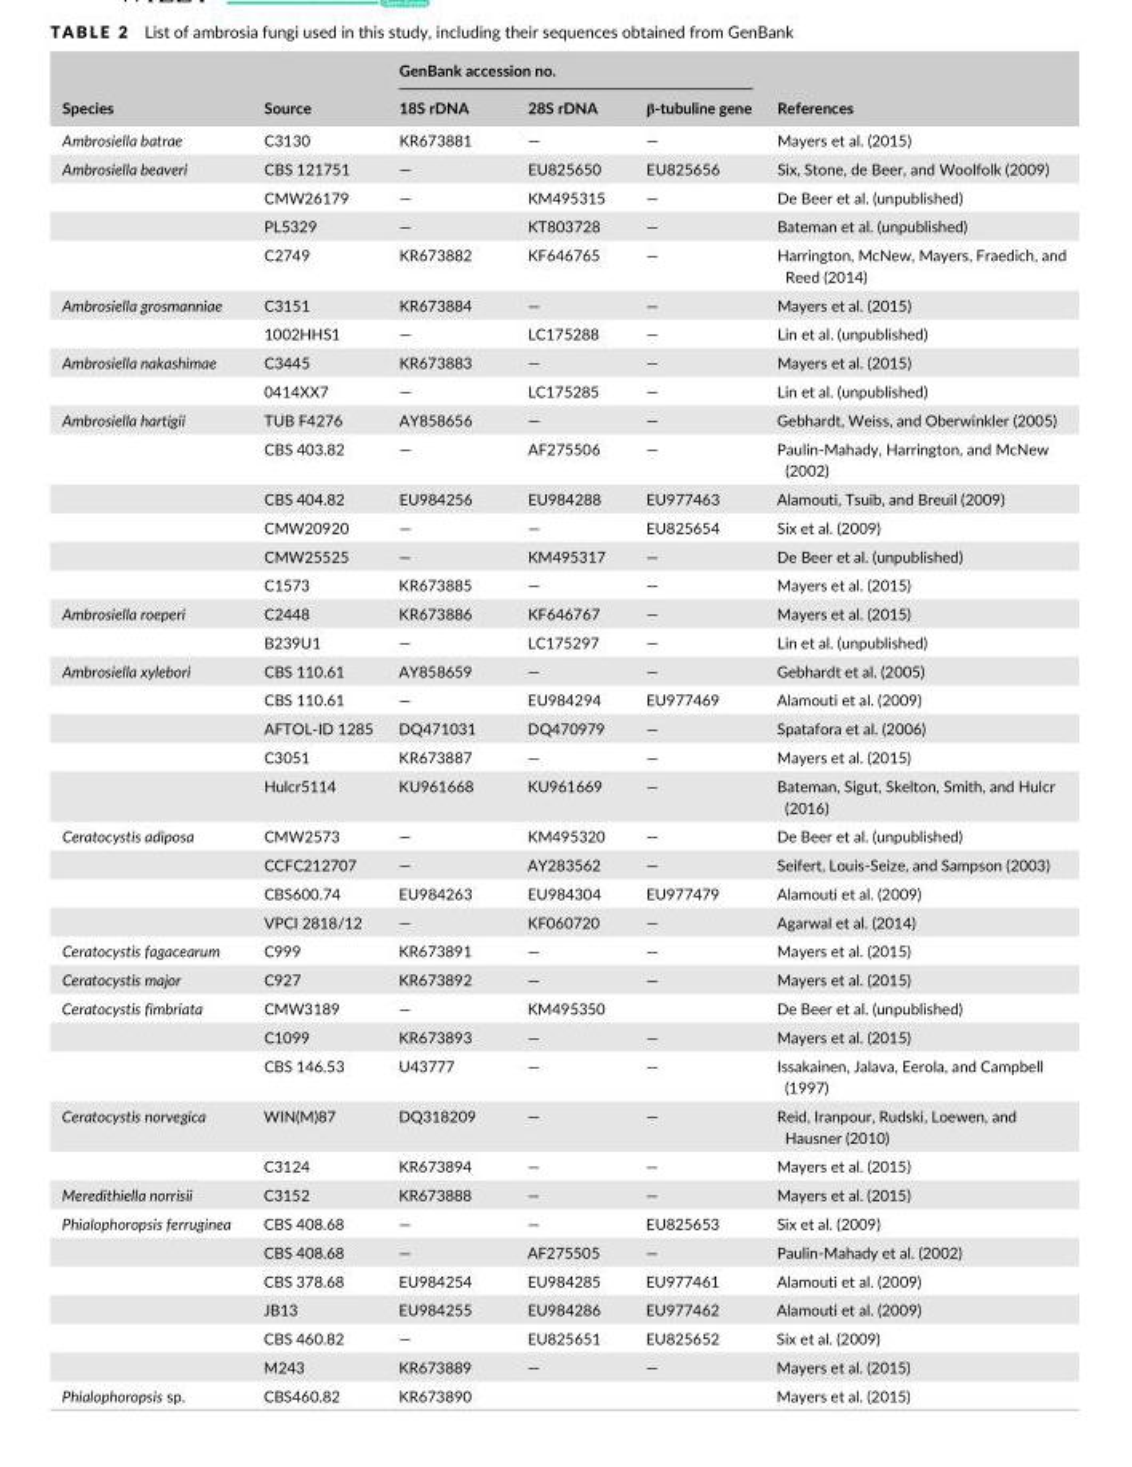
<table><thead><tr><td rowspan="2">Species</td><td rowspan="2">Source</td><td colspan="3">GenBank accession no.</td><td rowspan="2">References</td></tr><tr><td>18S rDNA</td><td>28S rDNA</td><td>β- tubuline gene</td></tr></thead><tbody><tr><td>Ambrosiella batrae</td><td>C3130</td><td>KR673881</td><td>—</td><td>—</td><td>Mayers et al. (2015)</td></tr><tr><td rowspan="4">Ambrosiella beaveri</td><td>CBS 121751</td><td>—</td><td>EU825650</td><td>EU825656</td><td>Six, Stone, de Beer, and Woolfolk (2009)</td></tr><tr><td>CMW26179</td><td>—</td><td>KM495315</td><td>—</td><td>De Beer et al. (unpublished)</td></tr><tr><td>PL5329</td><td>—</td><td>KT803728</td><td>—</td><td>Bateman et al. (unpublished)</td></tr><tr><td>C2749</td><td>KR673882</td><td>KF646765</td><td>—</td><td>Harrington, McNew, Mayers, Fraedich, and Reed (2014)</td></tr><tr><td rowspan="2">Ambrosiella grosmanniae</td><td>C3151</td><td>KR673884</td><td>—</td><td>—</td><td>Mayers et al. (2015)</td></tr><tr><td>1002HHS1</td><td>—</td><td>LC175288</td><td>—</td><td>Lin et al. (unpublished)</td></tr><tr><td rowspan="2">Ambrosiella nakashimae</td><td>C3445</td><td>KR673883</td><td>—</td><td>—</td><td>Mayers et al. (2015)</td></tr><tr><td>0414XX7</td><td>—</td><td>LC175285</td><td>—</td><td>Lin et al. (unpublished)</td></tr><tr><td rowspan="6">Ambrosiella hartigii</td><td>TUB F4276</td><td>AY858656</td><td>—</td><td>—</td><td>Gebhardt, Weiss, and Oberwinkler (2005)</td></tr><tr><td>CBS 403.82</td><td>—</td><td>AF275506</td><td>—</td><td>Paulin- Mahady, Harrington, and McNew (2002)</td></tr><tr><td>CBS 404.82</td><td>EU984256</td><td>EU984288</td><td>EU977463</td><td>Alamouti, Tsuib, and Breuil (2009)</td></tr><tr><td>CMW20920</td><td>—</td><td>—</td><td>EU825654</td><td>Six et al. (2009)</td></tr><tr><td>CMW25525</td><td>—</td><td>KM495317</td><td>—</td><td>De Beer et al. (unpublished)</td></tr><tr><td>C1573</td><td>KR673885</td><td>—</td><td>—</td><td>Mayers et al. (2015)</td></tr><tr><td rowspan="2">Ambrosiella roeperi</td><td>C2448</td><td>KR673886</td><td>KF646767</td><td>—</td><td>Mayers et al. (2015)</td></tr><tr><td>B239U1</td><td>—</td><td>LC175297</td><td>—</td><td>Lin et al. (unpublished)</td></tr><tr><td rowspan="5">Ambrosiella xylebori</td><td>CBS 110.61</td><td>AY858659</td><td>—</td><td>—</td><td>Gebhardt et al. (2005)</td></tr><tr><td>CBS 110.61</td><td>—</td><td>EU984294</td><td>EU977469</td><td>Alamouti et al. (2009)</td></tr><tr><td>AFTOL- ID 1285</td><td>DQ471031</td><td>DQ470979</td><td>—</td><td>Spatafora et al. (2006)</td></tr><tr><td>C3051</td><td>KR673887</td><td>—</td><td>—</td><td>Mayers et al. (2015)</td></tr><tr><td>Hulcr5114</td><td>KU961668</td><td>KU961669</td><td>—</td><td>Bateman, Sigut, Skelton, Smith, and Hulcr (2016)</td></tr><tr><td rowspan="4">Ceratocystis adiposa</td><td>CMW2573</td><td>—</td><td>KM495320</td><td>—</td><td>De Beer et al. (unpublished)</td></tr><tr><td>CCFC212707</td><td>—</td><td>AY283562</td><td>—</td><td>Seifert, Louis- Seize, and Sampson (2003)</td></tr><tr><td>CBS600.74</td><td>EU984263</td><td>EU984304</td><td>EU977479</td><td>Alamouti et al. (2009)</td></tr><tr><td>VPCI 2818/12</td><td>—</td><td>KF060720</td><td>—</td><td>Agarwal et al. (2014)</td></tr><tr><td>Ceratocystis fagacearum</td><td>C999</td><td>KR673891</td><td>—</td><td>—</td><td>Mayers et al. (2015)</td></tr><tr><td>Ceratocystis major</td><td>C927</td><td>KR673892</td><td>—</td><td>—</td><td>Mayers et al. (2015)</td></tr><tr><td rowspan="3">Ceratocystis fimbriata</td><td>CMW3189</td><td>—</td><td>KM495350</td><td></td><td>De Beer et al. (unpublished)</td></tr><tr><td>C1099</td><td>KR673893</td><td>—</td><td>—</td><td>Mayers et al. (2015)</td></tr><tr><td>CBS 146.53</td><td>U43777</td><td>—</td><td>—</td><td>Issakainen, Jalava, Eerola, and Campbell (1997)</td></tr><tr><td rowspan="2">Ceratocystis norvegica</td><td>WIN(M)87</td><td>DQ318209</td><td>—</td><td>—</td><td>Reid, Iranpour, Rudski, Loewen, and Hausner (2010)</td></tr><tr><td>C3124</td><td>KR673894</td><td>—</td><td>—</td><td>Mayers et al. (2015)</td></tr><tr><td>Meredithiella norrisii</td><td>C3152</td><td>KR673888</td><td>—</td><td>—</td><td>Mayers et al. (2015)</td></tr><tr><td rowspan="6">Phialophoropsis ferruginea</td><td>CBS 408.68</td><td>—</td><td>—</td><td>EU825653</td><td>Six et al. (2009)</td></tr><tr><td>CBS 408.68</td><td>—</td><td>AF275505</td><td>—</td><td>Paulin- Mahady et al. (2002)</td></tr><tr><td>CBS 378.68</td><td>EU984254</td><td>EU984285</td><td>EU977461</td><td>Alamouti et al. (2009)</td></tr><tr><td>JB13</td><td>EU984255</td><td>EU984286</td><td>EU977462</td><td>Alamouti et al. (2009)</td></tr><tr><td>CBS 460.82</td><td>—</td><td>EU825651</td><td>EU825652</td><td>Six et al. (2009)</td></tr><tr><td>M243</td><td>KR673889</td><td>—</td><td>—</td><td>Mayers et al. (2015)</td></tr><tr><td>Phialophoropsis sp.</td><td>CBS460.82</td><td>KR673890</td><td></td><td></td><td>Mayers et al. (2015)</td></tr></tbody></table>